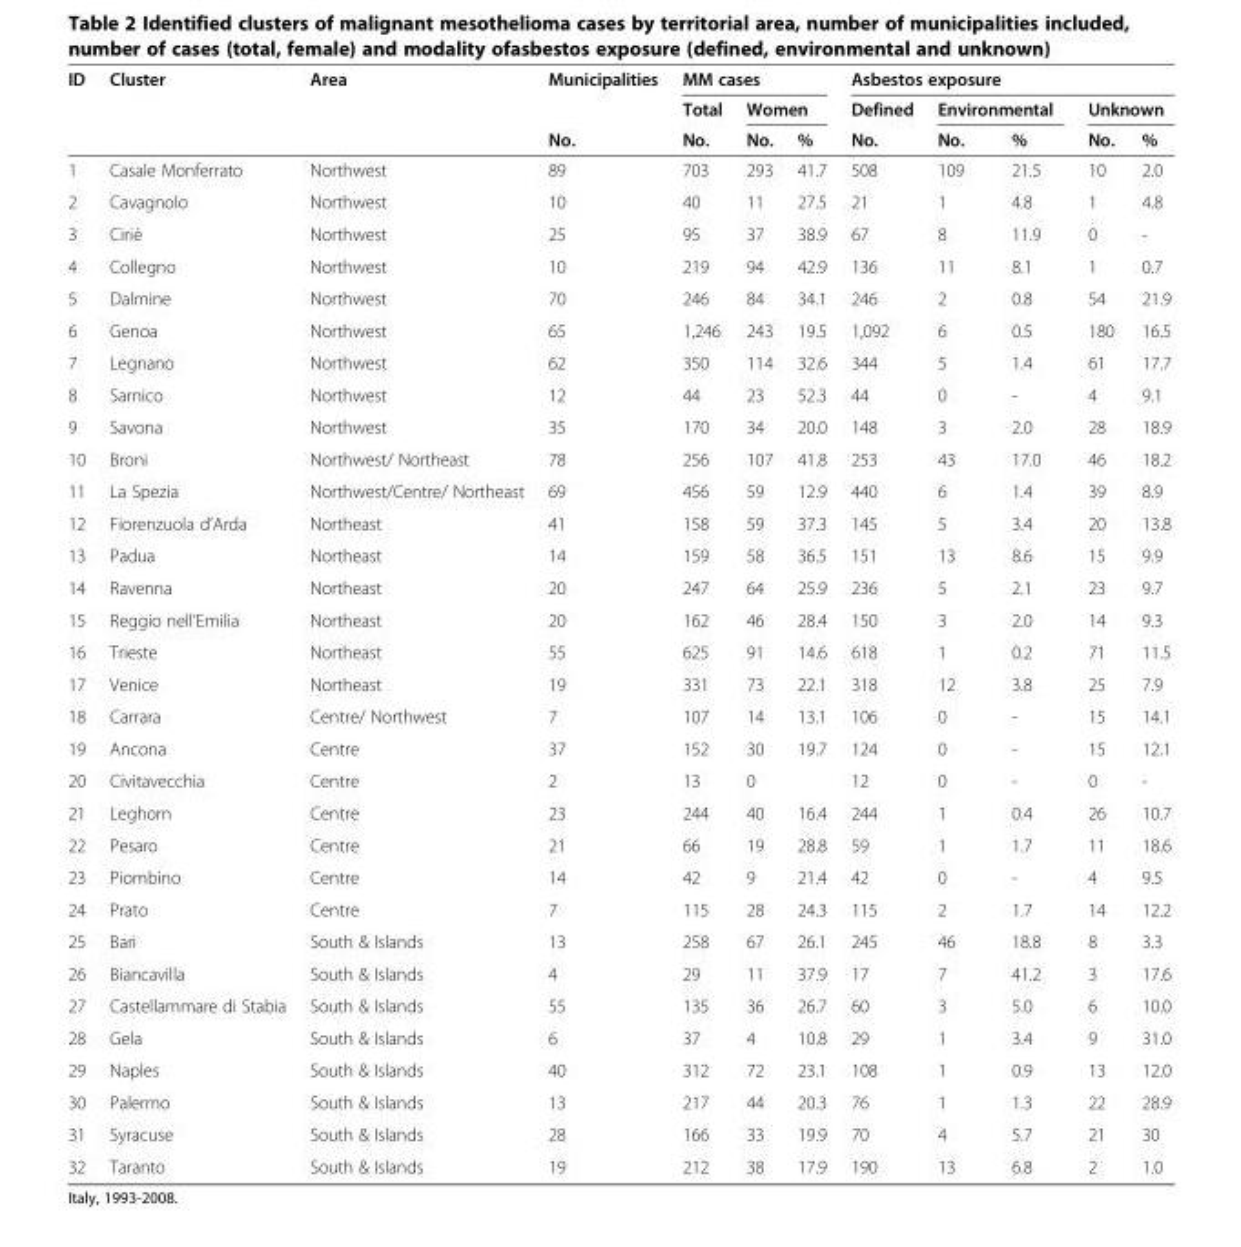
<table><thead><tr><td rowspan="3">ID</td><td rowspan="3">Cluster</td><td rowspan="3">Area</td><td rowspan="3">Municipalities No.</td><td colspan="3">MM cases</td><td colspan="5">Asbestos exposure</td></tr><tr><td rowspan="2">Total No.</td><td colspan="2">Women</td><td rowspan="2">Defined No.</td><td colspan="2">Environmental</td><td colspan="2">Unknown</td></tr><tr><td>No.</td><td>%</td><td>No.</td><td>%</td><td>No.</td><td>%</td></tr></thead><tbody><tr><td>1</td><td>Casale Monferrato</td><td>Northwest</td><td>89</td><td>703</td><td>293</td><td>41.7</td><td>508</td><td>109</td><td>21.5</td><td>10</td><td>2.0</td></tr><tr><td>2</td><td>Cavagnolo</td><td>Northwest</td><td>10</td><td>40</td><td>11</td><td>27.5</td><td>21</td><td>1</td><td>4.8</td><td>1</td><td>4.8</td></tr><tr><td>3</td><td>Ciriè</td><td>Northwest</td><td>25</td><td>95</td><td>37</td><td>38.9</td><td>67</td><td>8</td><td>11.9</td><td>0</td><td>-</td></tr><tr><td>4</td><td>Collegno</td><td>Northwest</td><td>10</td><td>219</td><td>94</td><td>42.9</td><td>136</td><td>11</td><td>8.1</td><td>1</td><td>0.7</td></tr><tr><td>5</td><td>Dalmine</td><td>Northwest</td><td>70</td><td>246</td><td>84</td><td>34.1</td><td>246</td><td>2</td><td>0.8</td><td>54</td><td>21.9</td></tr><tr><td>6</td><td>Genoa</td><td>Northwest</td><td>65</td><td>1,246</td><td>243</td><td>19.5</td><td>1,092</td><td>6</td><td>0.5</td><td>180</td><td>16.5</td></tr><tr><td>7</td><td>Legnano</td><td>Northwest</td><td>62</td><td>350</td><td>114</td><td>32.6</td><td>344</td><td>5</td><td>1.4</td><td>61</td><td>17.7</td></tr><tr><td>8</td><td>Sarnico</td><td>Northwest</td><td>12</td><td>44</td><td>23</td><td>52.3</td><td>44</td><td>0</td><td>-</td><td>4</td><td>9.1</td></tr><tr><td>9</td><td>Savona</td><td>Northwest</td><td>35</td><td>170</td><td>34</td><td>20.0</td><td>148</td><td>3</td><td>2.0</td><td>28</td><td>18.9</td></tr><tr><td>10</td><td>Broni</td><td>Northwest/ Northeast</td><td>78</td><td>256</td><td>107</td><td>41.8</td><td>253</td><td>43</td><td>17.0</td><td>46</td><td>18.2</td></tr><tr><td>11</td><td>La Spezia</td><td>Northwest/Centre/ Northeast</td><td>69</td><td>456</td><td>59</td><td>12.9</td><td>440</td><td>6</td><td>1.4</td><td>39</td><td>8.9</td></tr><tr><td>12</td><td>Fiorenzuola d’Arda</td><td>Northeast</td><td>41</td><td>158</td><td>59</td><td>37.3</td><td>145</td><td>5</td><td>3.4</td><td>20</td><td>13.8</td></tr><tr><td>13</td><td>Padua</td><td>Northeast</td><td>14</td><td>159</td><td>58</td><td>36.5</td><td>151</td><td>13</td><td>8.6</td><td>15</td><td>9.9</td></tr><tr><td>14</td><td>Ravenna</td><td>Northeast</td><td>20</td><td>247</td><td>64</td><td>25.9</td><td>236</td><td>5</td><td>2.1</td><td>23</td><td>9.7</td></tr><tr><td>15</td><td>Reggio nell’Emilia</td><td>Northeast</td><td>20</td><td>162</td><td>46</td><td>28.4</td><td>150</td><td>3</td><td>2.0</td><td>14</td><td>9.3</td></tr><tr><td>16</td><td>Trieste</td><td>Northeast</td><td>55</td><td>625</td><td>91</td><td>14.6</td><td>618</td><td>1</td><td>0.2</td><td>71</td><td>11.5</td></tr><tr><td>17</td><td>Venice</td><td>Northeast</td><td>19</td><td>331</td><td>73</td><td>22.1</td><td>318</td><td>12</td><td>3.8</td><td>25</td><td>7.9</td></tr><tr><td>18</td><td>Carrara</td><td>Centre/ Northwest</td><td>7</td><td>107</td><td>14</td><td>13.1</td><td>106</td><td>0</td><td>-</td><td>15</td><td>14.1</td></tr><tr><td>19</td><td>Ancona</td><td>Centre</td><td>37</td><td>152</td><td>30</td><td>19.7</td><td>124</td><td>0</td><td>-</td><td>15</td><td>12.1</td></tr><tr><td>20</td><td>Civitavecchia</td><td>Centre</td><td>2</td><td>13</td><td>0</td><td></td><td>12</td><td>0</td><td>-</td><td>0</td><td>-</td></tr><tr><td>21</td><td>Leghorn</td><td>Centre</td><td>23</td><td>244</td><td>40</td><td>16.4</td><td>244</td><td>1</td><td>0.4</td><td>26</td><td>10.7</td></tr><tr><td>22</td><td>Pesaro</td><td>Centre</td><td>21</td><td>66</td><td>19</td><td>28.8</td><td>59</td><td>1</td><td>1.7</td><td>11</td><td>18.6</td></tr><tr><td>23</td><td>Piombino</td><td>Centre</td><td>14</td><td>42</td><td>9</td><td>21.4</td><td>42</td><td>0</td><td>-</td><td>4</td><td>9.5</td></tr><tr><td>24</td><td>Prato</td><td>Centre</td><td>7</td><td>115</td><td>28</td><td>24.3</td><td>115</td><td>2</td><td>1.7</td><td>14</td><td>12.2</td></tr><tr><td>25</td><td>Bari</td><td>South &amp; Islands</td><td>13</td><td>258</td><td>67</td><td>26.1</td><td>245</td><td>46</td><td>18.8</td><td>8</td><td>3.3</td></tr><tr><td>26</td><td>Biancavilla</td><td>South &amp; Islands</td><td>4</td><td>29</td><td>11</td><td>37.9</td><td>17</td><td>7</td><td>41.2</td><td>3</td><td>17.6</td></tr><tr><td>27</td><td>Castellammare di Stabia</td><td>South &amp; Islands</td><td>55</td><td>135</td><td>36</td><td>26.7</td><td>60</td><td>3</td><td>5.0</td><td>6</td><td>10.0</td></tr><tr><td>28</td><td>Gela</td><td>South &amp; Islands</td><td>6</td><td>37</td><td>4</td><td>10.8</td><td>29</td><td>1</td><td>3.4</td><td>9</td><td>31.0</td></tr><tr><td>29</td><td>Naples</td><td>South &amp; Islands</td><td>40</td><td>312</td><td>72</td><td>23.1</td><td>108</td><td>1</td><td>0.9</td><td>13</td><td>12.0</td></tr><tr><td>30</td><td>Palermo</td><td>South &amp; Islands</td><td>13</td><td>217</td><td>44</td><td>20.3</td><td>76</td><td>1</td><td>1.3</td><td>22</td><td>28.9</td></tr><tr><td>31</td><td>Syracuse</td><td>South &amp; Islands</td><td>28</td><td>166</td><td>33</td><td>19.9</td><td>70</td><td>4</td><td>5.7</td><td>21</td><td>30</td></tr><tr><td>32</td><td>Taranto</td><td>South &amp; Islands</td><td>19</td><td>212</td><td>38</td><td>17.9</td><td>190</td><td>13</td><td>6.8</td><td>2</td><td>1.0</td></tr></tbody></table>